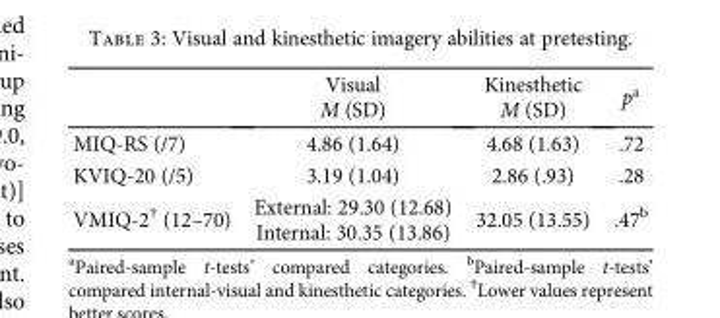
<table><thead><tr><td></td><td>Visual M (SD)</td><td>Kinesthetic M (SD)</td><td>p<sup>a</sup></td></tr></thead><tbody><tr><td>MIQ-RS (/7)</td><td>4.86 (1.64)</td><td>4.68 (1.63)</td><td>.72</td></tr><tr><td>KVIQ-20 (/5)</td><td>3.19 (1.04)</td><td>2.86 (.93)</td><td>.28</td></tr><tr><td>VMIQ-2<sup>†</sup> (12–70)</td><td>External: 29.30 (12.68) Internal: 30.35 (13.86)</td><td>32.05 (13.55)</td><td>.47<sup>b</sup></td></tr></tbody></table>